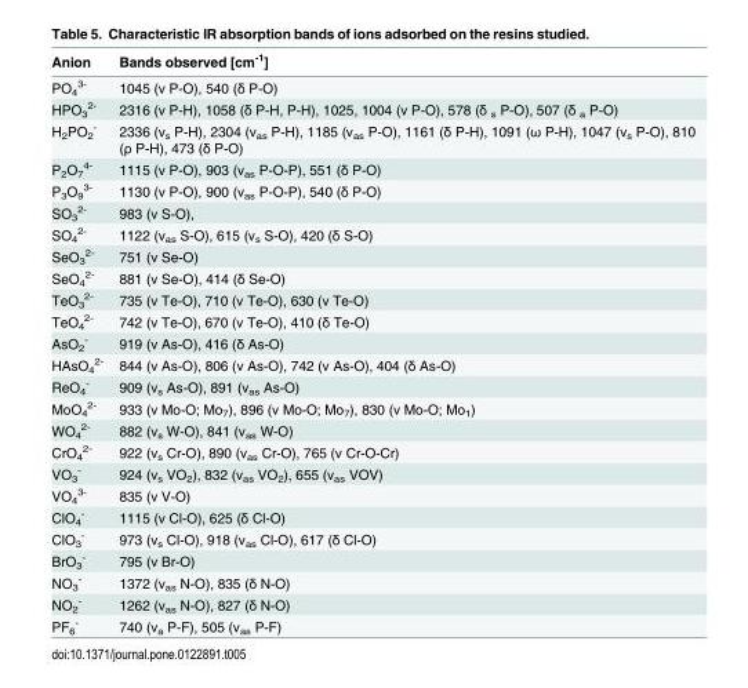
<table><thead><tr><td>Anion</td><td>Bands observed [cm<sup>-1</sup>]</td></tr></thead><tbody><tr><td>PO<sub>4</sub> <sup>3-</sup></td><td>1045 (ν P-O), 540 (δ P-O)</td></tr><tr><td>HPO<sub>3</sub> <sup>2-</sup></td><td>2316 (ν P-H), 1058 (δ P-H, P-H), 1025, 1004 (ν P-O), 578 (δ <sub>s</sub> P-O), 507 (δ <sub>a</sub> P-O)</td></tr><tr><td>H<sub>2</sub>PO<sub>2</sub> <sup>-</sup></td><td>2336 (ν<sub>s</sub> P-H), 2304 (ν<sub>as</sub> P-H), 1185 (ν<sub>as</sub> P-O), 1161 (δ P-H), 1091 (ω P-H), 1047 (ν<sub>s</sub> P-O), 810 (ρ P-H), 473 (δ P-O)</td></tr><tr><td>P<sub>2</sub>O<sub>7</sub> <sup>4-</sup></td><td>1115 (ν P-O), 903 (ν<sub>as</sub> P-O-P), 551 (δ P-O)</td></tr><tr><td>P<sub>3</sub>O<sub>9</sub> <sup>3-</sup></td><td>1130 (ν P-O), 900 (ν<sub>as</sub> P-O-P), 540 (δ P-O)</td></tr><tr><td>SO<sub>3</sub> <sup>2-</sup></td><td>983 (ν S-O),</td></tr><tr><td>SO<sub>4</sub> <sup>2-</sup></td><td>1122 (ν<sub>as</sub> S-O), 615 (ν<sub>s</sub> S-O), 420 (δ S-O)</td></tr><tr><td>SeO<sub>3</sub> <sup>2-</sup></td><td>751 (ν Se-O)</td></tr><tr><td>SeO<sub>4</sub> <sup>2-</sup></td><td>881 (ν Se-O), 414 (δ Se-O)</td></tr><tr><td>TeO<sub>3</sub> <sup>2-</sup></td><td>735 (ν Te-O), 710 (ν Te-O), 630 (ν Te-O)</td></tr><tr><td>TeO<sub>4</sub> <sup>2-</sup></td><td>742 (ν Te-O), 670 (ν Te-O), 410 (δ Te-O)</td></tr><tr><td>AsO<sub>2</sub> <sup>-</sup></td><td>919 (ν As-O), 416 (δ As-O)</td></tr><tr><td>HAsO<sub>4</sub> <sup>2-</sup></td><td>844 (ν As-O), 806 (ν As-O), 742 (ν As-O), 404 (δ As-O)</td></tr><tr><td>ReO<sub>4</sub> <sup>-</sup></td><td>909 (ν<sub>s</sub> As-O), 891 (ν<sub>as</sub> As-O)</td></tr><tr><td>MoO<sub>4</sub> <sup>2-</sup></td><td>933 (ν Mo-O; Mo<sub>7</sub>), 896 (ν Mo-O; Mo<sub>7</sub>), 830 (ν Mo-O; Mo<sub>1</sub>)</td></tr><tr><td>WO<sub>4</sub> <sup>2-</sup></td><td>882 (ν<sub>s</sub> W-O), 841 (ν<sub>as</sub> W-O)</td></tr><tr><td>CrO<sub>4</sub> <sup>2-</sup></td><td>922 (ν<sub>s</sub> Cr-O), 890 (ν<sub>as</sub> Cr-O), 765 (ν Cr-O-Cr)</td></tr><tr><td>VO<sub>3</sub> <sup>-</sup></td><td>924 (ν<sub>s</sub> VO<sub>2</sub>), 832 (ν<sub>as</sub> VO<sub>2</sub>), 655 (ν<sub>as</sub> VOV)</td></tr><tr><td>VO<sub>4</sub> <sup>3-</sup></td><td>835 (ν V-O)</td></tr><tr><td>ClO<sub>4</sub> <sup>-</sup></td><td>1115 (ν Cl-O), 625 (δ Cl-O)</td></tr><tr><td>ClO<sub>3</sub> <sup>-</sup></td><td>973 (ν<sub>s</sub> Cl-O), 918 (ν<sub>as</sub> Cl-O), 617 (δ Cl-O)</td></tr><tr><td>BrO<sub>3</sub> <sup>-</sup></td><td>795 (ν Br-O)</td></tr><tr><td>NO<sub>3</sub> <sup>-</sup></td><td>1372 (ν<sub>as</sub> N-O), 835 (δ N-O)</td></tr><tr><td>NO<sub>2</sub> <sup>-</sup></td><td>1262 (ν<sub>as</sub> N-O), 827 (δ N-O)</td></tr><tr><td>PF<sub>6</sub> <sup>-</sup></td><td>740 (ν<sub>a</sub> P-F), 505 (ν<sub>as</sub> P-F)</td></tr></tbody></table>